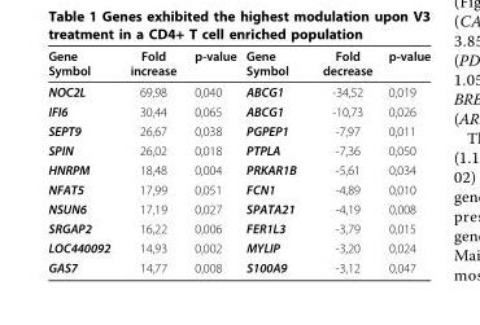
<table><thead><tr><td>Gene Symbol</td><td>Fold increase</td><td>p-value</td><td>Gene Symbol</td><td>Fold decrease</td><td>p-value</td></tr></thead><tbody><tr><td>NOC2L</td><td>69,98</td><td>0,040</td><td>ABCG1</td><td>-34,52</td><td>0,019</td></tr><tr><td>IFI6</td><td>30,44</td><td>0,065</td><td>ABCG1</td><td>-10,73</td><td>0,026</td></tr><tr><td>SEPT9</td><td>26,67</td><td>0,038</td><td>PGPEP1</td><td>-7,97</td><td>0,011</td></tr><tr><td>SPIN</td><td>26,02</td><td>0,018</td><td>PTPLA</td><td>-7,36</td><td>0,050</td></tr><tr><td>HNRPM</td><td>18,48</td><td>0,004</td><td>PRKAR1B</td><td>-5,61</td><td>0,034</td></tr><tr><td>NFAT5</td><td>17,99</td><td>0,051</td><td>FCN1</td><td>-4,89</td><td>0,010</td></tr><tr><td>NSUN6</td><td>17,19</td><td>0,027</td><td>SPATA21</td><td>-4,19</td><td>0,008</td></tr><tr><td>SRGAP2</td><td>16,22</td><td>0,006</td><td>FER1L3</td><td>-3,79</td><td>0,015</td></tr><tr><td>LOC440092</td><td>14,93</td><td>0,002</td><td>MYLIP</td><td>-3,20</td><td>0,024</td></tr><tr><td>GAS7</td><td>14,77</td><td>0,008</td><td>S100A9</td><td>-3,12</td><td>0,047</td></tr></tbody></table>